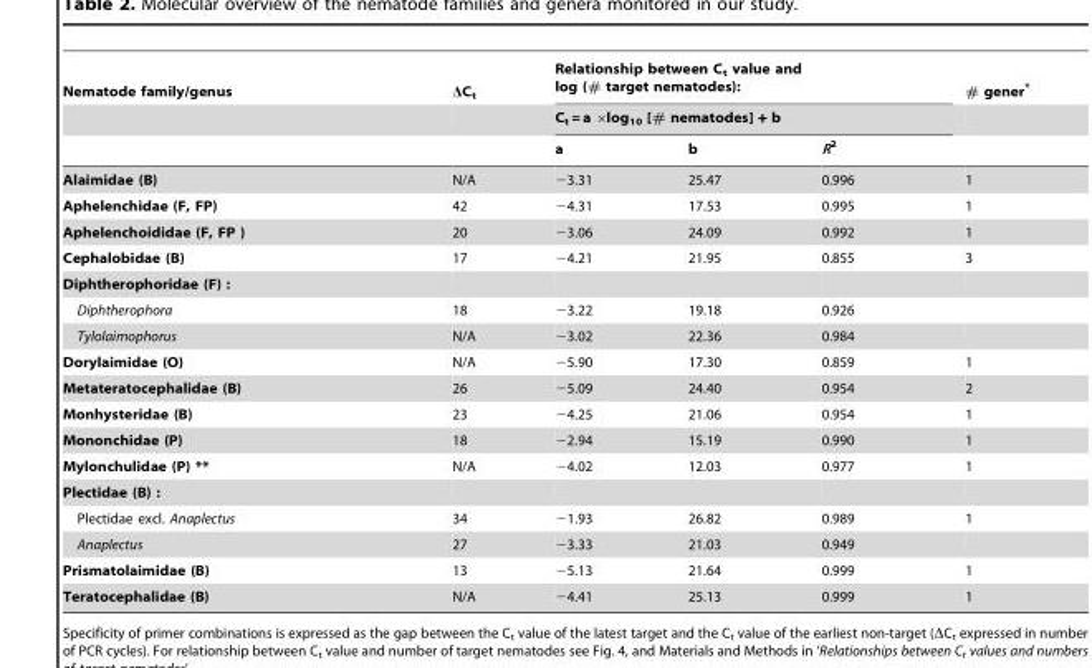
<table><thead><tr><td rowspan="3">Nematode family/genus</td><td rowspan="3">ΔC<sub>t</sub></td><td rowspan="2" colspan="3">Relationship between C<sub>t</sub> value and log (# target nematodes): C<sub>t</sub> = a ×log<sub>10</sub> [# nematodes] + b</td><td rowspan="3"># gener*</td></tr><tr></tr><tr><td>a</td><td>b</td><td>R<sup>2</sup></td></tr></thead><tbody><tr><td>Alaimidae (B)</td><td>N/A</td><td>−3.31</td><td>25.47</td><td>0.996</td><td>1</td></tr><tr><td>Aphelenchidae (F, FP)</td><td>42</td><td>−4.31</td><td>17.53</td><td>0.995</td><td>1</td></tr><tr><td>Aphelenchoididae (F, FP )</td><td>20</td><td>−3.06</td><td>24.09</td><td>0.992</td><td>1</td></tr><tr><td>Cephalobidae (B)</td><td>17</td><td>−4.21</td><td>21.95</td><td>0.855</td><td>3</td></tr><tr><td colspan="6">Diphtherophoridae (F) :</td></tr><tr><td>Diphtherophora</td><td>18</td><td>−3.22</td><td>19.18</td><td>0.926</td><td></td></tr><tr><td>Tylolaimophorus</td><td>N/A</td><td>−3.02</td><td>22.36</td><td>0.984</td><td></td></tr><tr><td>Dorylaimidae (O)</td><td>N/A</td><td>−5.90</td><td>17.30</td><td>0.859</td><td>1</td></tr><tr><td>Metateratocephalidae (B)</td><td>26</td><td>−5.09</td><td>24.40</td><td>0.954</td><td>2</td></tr><tr><td>Monhysteridae (B)</td><td>23</td><td>−4.25</td><td>21.06</td><td>0.954</td><td>1</td></tr><tr><td>Mononchidae (P)</td><td>18</td><td>−2.94</td><td>15.19</td><td>0.990</td><td>1</td></tr><tr><td>Mylonchulidae (P) **</td><td>N/A</td><td>−4.02</td><td>12.03</td><td>0.977</td><td>1</td></tr><tr><td colspan="6">Plectidae (B) :</td></tr><tr><td>Plectidae excl. Anaplectus</td><td>34</td><td>−1.93</td><td>26.82</td><td>0.989</td><td>1</td></tr><tr><td>Anaplectus</td><td>27</td><td>−3.33</td><td>21.03</td><td>0.949</td><td></td></tr><tr><td>Prismatolaimidae (B)</td><td>13</td><td>−5.13</td><td>21.64</td><td>0.999</td><td>1</td></tr><tr><td>Teratocephalidae (B)</td><td>N/A</td><td>−4.41</td><td>25.13</td><td>0.999</td><td>1</td></tr></tbody></table>